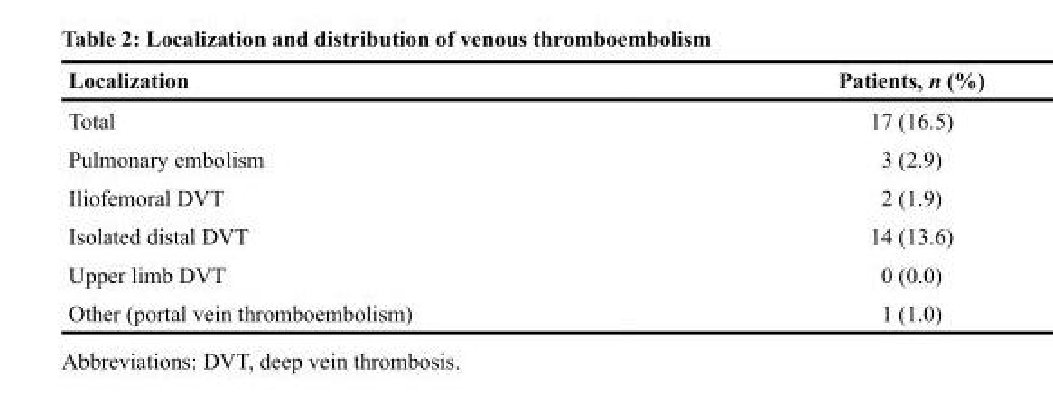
<table><thead><tr><td>Localization</td><td>Patients, n (%)</td></tr></thead><tbody><tr><td>Total</td><td>17 (16.5)</td></tr><tr><td>Pulmonary embolism</td><td>3 (2.9)</td></tr><tr><td>Iliofemoral DVT</td><td>2 (1.9)</td></tr><tr><td>Isolated distal DVT</td><td>14 (13.6)</td></tr><tr><td>Upper limb DVT</td><td>0 (0.0)</td></tr><tr><td>Other (portal vein thromboembolism)</td><td>1 (1.0)</td></tr></tbody></table>